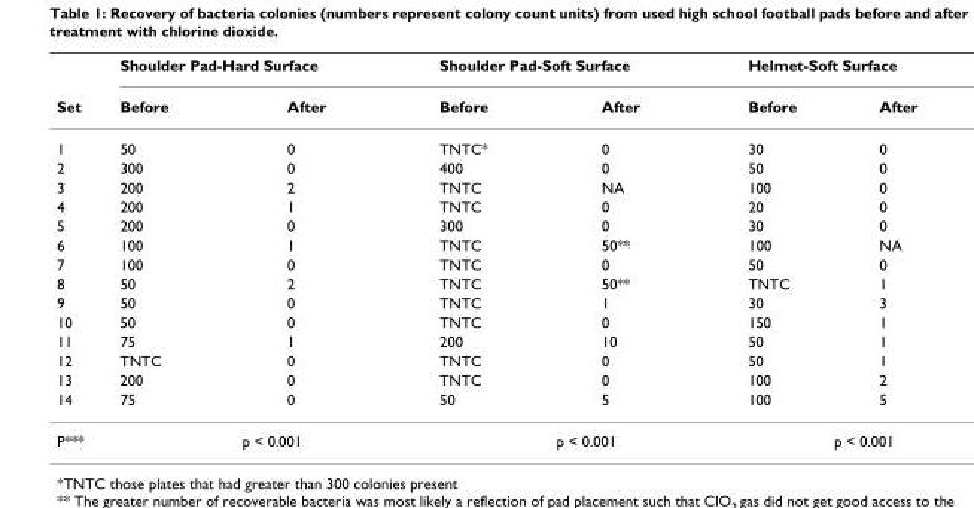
<table><thead><tr><td rowspan="2">Set</td><td colspan="2">Shoulder Pad-Hard Surface</td><td colspan="2">Shoulder Pad-Soft Surface</td><td colspan="2">Helmet-Soft Surface</td></tr><tr><td>Before</td><td>After</td><td>Before</td><td>After</td><td>Before</td><td>After</td></tr></thead><tbody><tr><td>1</td><td>50</td><td>0</td><td>TNTC*</td><td>0</td><td>30</td><td>0</td></tr><tr><td>2</td><td>300</td><td>0</td><td>400</td><td>0</td><td>50</td><td>0</td></tr><tr><td>3</td><td>200</td><td>2</td><td>TNTC</td><td>NA</td><td>100</td><td>0</td></tr><tr><td>4</td><td>200</td><td>1</td><td>TNTC</td><td>0</td><td>20</td><td>0</td></tr><tr><td>5</td><td>200</td><td>0</td><td>300</td><td>0</td><td>30</td><td>0</td></tr><tr><td>6</td><td>100</td><td>1</td><td>TNTC</td><td>50**</td><td>100</td><td>NA</td></tr><tr><td>7</td><td>100</td><td>0</td><td>TNTC</td><td>0</td><td>50</td><td>0</td></tr><tr><td>8</td><td>50</td><td>2</td><td>TNTC</td><td>50**</td><td>TNTC</td><td>1</td></tr><tr><td>9</td><td>50</td><td>0</td><td>TNTC</td><td>1</td><td>30</td><td>3</td></tr><tr><td>10</td><td>50</td><td>0</td><td>TNTC</td><td>0</td><td>150</td><td>1</td></tr><tr><td>11</td><td>75</td><td>1</td><td>200</td><td>10</td><td>50</td><td>1</td></tr><tr><td>12</td><td>TNTC</td><td>0</td><td>TNTC</td><td>0</td><td>50</td><td>1</td></tr><tr><td>13</td><td>200</td><td>0</td><td>TNTC</td><td>0</td><td>100</td><td>2</td></tr><tr><td>14</td><td>75</td><td>0</td><td>50</td><td>5</td><td>100</td><td>5</td></tr><tr><td>P***</td><td colspan="2">p &lt; 0.001</td><td colspan="2">p &lt; 0.001</td><td colspan="2">p &lt; 0.001</td></tr></tbody></table>